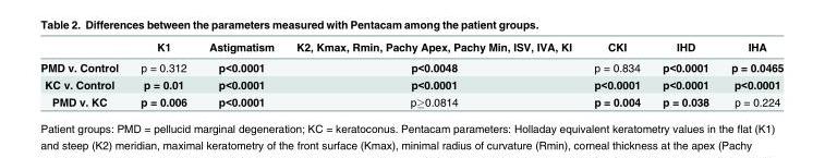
<table><thead><tr><td></td><td>K1</td><td>Astigmatism</td><td>K2, Kmax, Rmin, Pachy Apex, Pachy Min, ISV, IVA, KI</td><td>CKI</td><td>IHD</td><td>IHA</td></tr></thead><tbody><tr><td>PMD v. Control</td><td>p = 0.312</td><td>p&lt;0.0001</td><td>p&lt;0.0048</td><td>p = 0.834</td><td>p&lt;0.0001</td><td>p = 0.0465</td></tr><tr><td>KC v. Control</td><td>p = 0.01</td><td>p&lt;0.0001</td><td>p&lt;0.0001</td><td>p&lt;0.0001</td><td>p&lt;0.0001</td><td>p&lt;0.0001</td></tr><tr><td>PMD v. KC</td><td>p = 0.006</td><td>p&lt;0.0001</td><td>p≥0.0814</td><td>p = 0.004</td><td>p = 0.038</td><td>p = 0.224</td></tr></tbody></table>